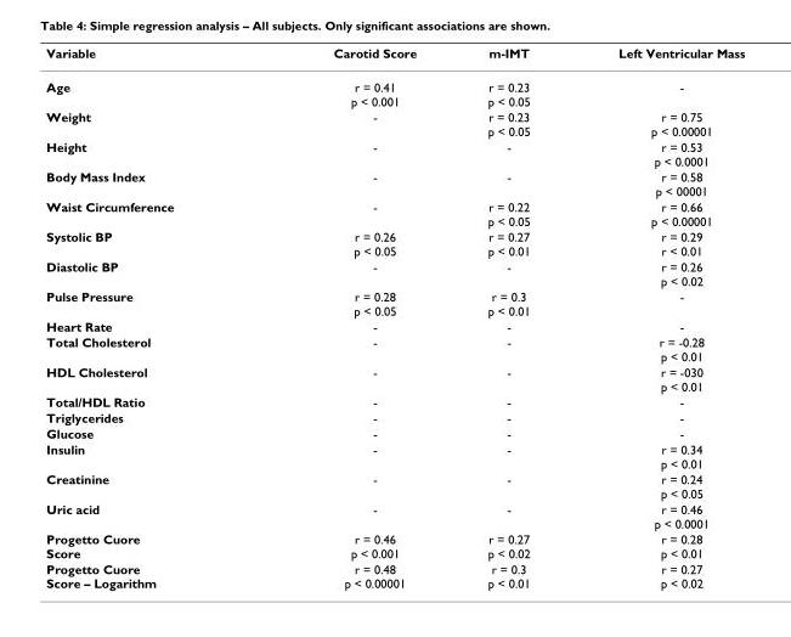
<table><thead><tr><td>Variable</td><td>Carotid Score</td><td>m-IMT</td><td>Left Ventricular Mass</td></tr></thead><tbody><tr><td>Age</td><td>r = 0.41 p &lt; 0.001</td><td>r = 0.23 p &lt; 0.05</td><td>-</td></tr><tr><td>Weight</td><td>-</td><td>r = 0.23 p &lt; 0.05</td><td>r = 0.75 p &lt; 0.00001</td></tr><tr><td>Height</td><td>-</td><td>-</td><td>r = 0.53 p &lt; 0.0001</td></tr><tr><td>Body Mass Index</td><td>-</td><td>-</td><td>r = 0.58 p &lt; 00001</td></tr><tr><td>Waist Circumference</td><td>-</td><td>r = 0.22 p &lt; 0.05</td><td>r = 0.66 p &lt; 0.00001</td></tr><tr><td>Systolic BP</td><td>r = 0.26 p &lt; 0.05</td><td>r = 0.27 p &lt; 0.01</td><td>r = 0.29 r &lt; 0.01</td></tr><tr><td>Diastolic BP</td><td>-</td><td>-</td><td>r = 0.26 p &lt; 0.02</td></tr><tr><td>Pulse Pressure</td><td>r = 0.28 p &lt; 0.05</td><td>r = 0.3 p &lt; 0.01</td><td>-</td></tr><tr><td>Heart Rate</td><td>-</td><td>-</td><td>-</td></tr><tr><td>Total Cholesterol</td><td>-</td><td>-</td><td>r = -0.28 p &lt; 0.01</td></tr><tr><td>HDL Cholesterol</td><td>-</td><td>-</td><td>r = -030 p &lt; 0.01</td></tr><tr><td>Total/HDL Ratio</td><td>-</td><td>-</td><td>-</td></tr><tr><td>Triglycerides</td><td>-</td><td>-</td><td>-</td></tr><tr><td>Glucose</td><td>-</td><td>-</td><td>-</td></tr><tr><td>Insulin</td><td>-</td><td>-</td><td>r = 0.34 p &lt; 0.01</td></tr><tr><td>Creatinine</td><td>-</td><td>-</td><td>r = 0.24 p &lt; 0.05</td></tr><tr><td>Uric acid</td><td>-</td><td>-</td><td>r = 0.46 p &lt; 0.0001</td></tr><tr><td>Progetto Cuore Score</td><td>r = 0.46 p &lt; 0.001</td><td>r = 0.27 p &lt; 0.02</td><td>r = 0.28 p &lt; 0.01</td></tr><tr><td>Progetto Cuore Score – Logarithm</td><td>r = 0.48 p &lt; 0.00001</td><td>r = 0.3 p &lt; 0.01</td><td>r = 0.27 p &lt; 0.02</td></tr></tbody></table>